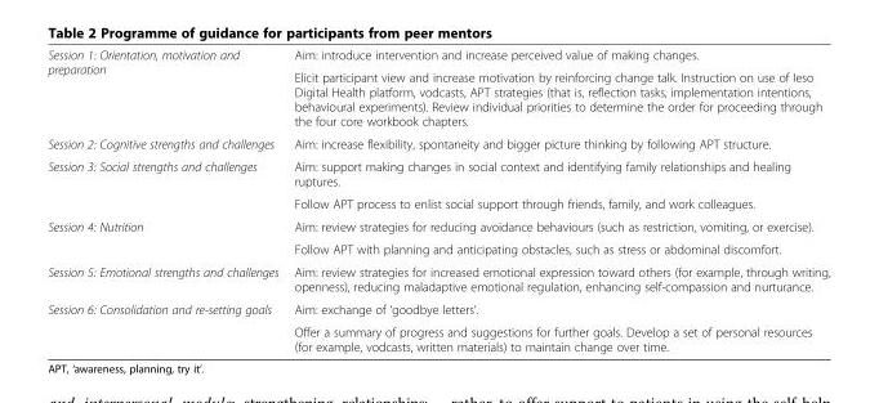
<table><tbody><tr><td rowspan="2">Session 1: Orientation, motivation and preparation</td><td>Aim: introduce intervention and increase perceived value of making changes.</td></tr><tr><td>Elicit participant view and increase motivation by reinforcing change talk. Instruction on use of Ieso Digital Health platform, vodcasts, APT strategies (that is, reflection tasks, implementation intentions, behavioural experiments). Review individual priorities to determine the order for proceeding through the four core workbook chapters.</td></tr><tr><td>Session 2: Cognitive strengths and challenges</td><td>Aim: increase flexibility, spontaneity and bigger picture thinking by following APT structure.</td></tr><tr><td rowspan="2">Session 3: Social strengths and challenges</td><td>Aim: support making changes in social context and identifying family relationships and healing ruptures.</td></tr><tr><td>Follow APT process to enlist social support through friends, family, and work colleagues.</td></tr><tr><td rowspan="2">Session 4: Nutrition</td><td>Aim: review strategies for reducing avoidance behaviours (such as restriction, vomiting, or exercise).</td></tr><tr><td>Follow APT with planning and anticipating obstacles, such as stress or abdominal discomfort.</td></tr><tr><td>Session 5: Emotional strengths and challenges</td><td>Aim: review strategies for increased emotional expression toward others (for example, through writing, openness), reducing maladaptive emotional regulation, enhancing self-compassion and nurturance.</td></tr><tr><td rowspan="2">Session 6: Consolidation and re-setting goals</td><td>Aim: exchange of ‘goodbye letters’.</td></tr><tr><td>Offer a summary of progress and suggestions for further goals. Develop a set of personal resources (for example, vodcasts, written materials) to maintain change over time.</td></tr></tbody></table>